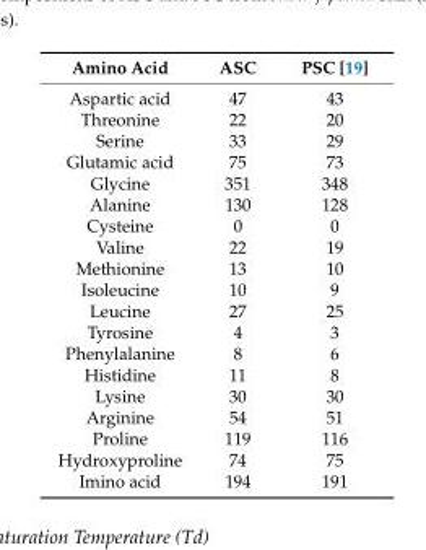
<table><thead><tr><td>Amino Acid</td><td>ASC</td><td>PSC [19]</td></tr></thead><tbody><tr><td>Aspartic acid</td><td>47</td><td>43</td></tr><tr><td>Threonine</td><td>22</td><td>20</td></tr><tr><td>Serine</td><td>33</td><td>29</td></tr><tr><td>Glutamic acid</td><td>75</td><td>73</td></tr><tr><td>Glycine</td><td>351</td><td>348</td></tr><tr><td>Alanine</td><td>130</td><td>128</td></tr><tr><td>Cysteine</td><td>0</td><td>0</td></tr><tr><td>Valine</td><td>22</td><td>19</td></tr><tr><td>Methionine</td><td>13</td><td>10</td></tr><tr><td>Isoleucine</td><td>10</td><td>9</td></tr><tr><td>Leucine</td><td>27</td><td>25</td></tr><tr><td>Tyrosine</td><td>4</td><td>3</td></tr><tr><td>Phenylalanine</td><td>8</td><td>6</td></tr><tr><td>Histidine</td><td>11</td><td>8</td></tr><tr><td>Lysine</td><td>30</td><td>30</td></tr><tr><td>Arginine</td><td>54</td><td>51</td></tr><tr><td>Proline</td><td>119</td><td>116</td></tr><tr><td>Hydroxyproline</td><td>74</td><td>75</td></tr><tr><td>Imino acid</td><td>194</td><td>191</td></tr></tbody></table>